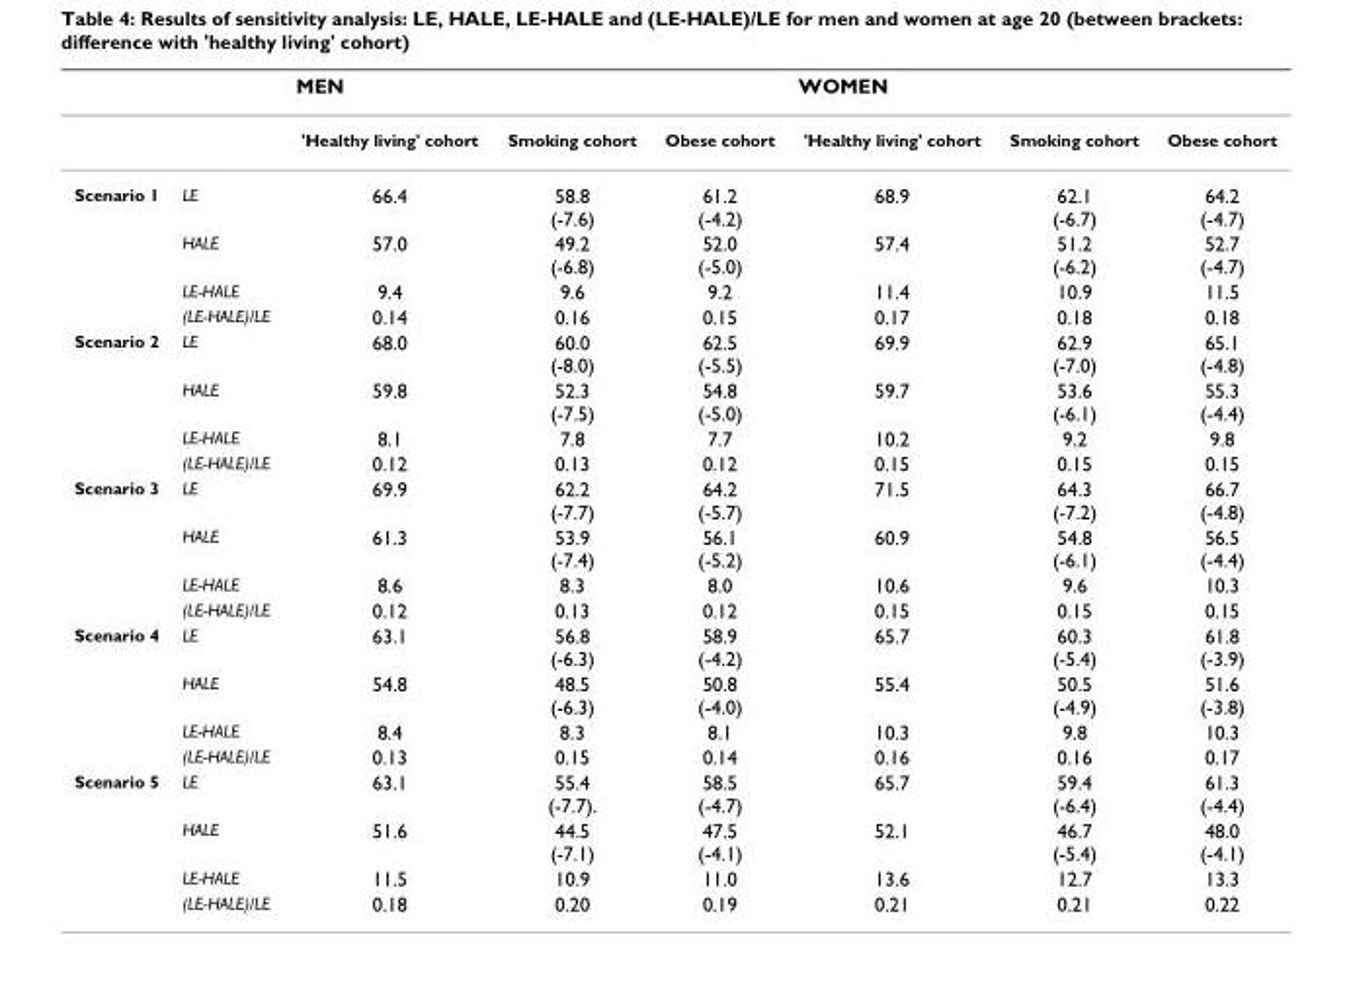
<table><thead><tr><td rowspan="2"></td><td rowspan="2"></td><td colspan="3">MEN</td><td colspan="3">WOMEN</td></tr><tr><td>&#x27;Healthy living&#x27; cohort</td><td>Smoking cohort</td><td>Obese cohort</td><td>&#x27;Healthy living&#x27; cohort</td><td>Smoking cohort</td><td>Obese cohort</td></tr></thead><tbody><tr><td rowspan="4">Scenario 1</td><td>LE</td><td>66.4</td><td>58.8 (-7.6)</td><td>61.2 (-4.2)</td><td>68.9</td><td>62.1 (-6.7)</td><td>64.2 (-4.7)</td></tr><tr><td>HALE</td><td>57.0</td><td>49.2 (-6.8)</td><td>52.0 (-5.0)</td><td>57.4</td><td>51.2 (-6.2)</td><td>52.7 (-4.7)</td></tr><tr><td>LE-HALE</td><td>9.4</td><td>9.6</td><td>9.2</td><td>11.4</td><td>10.9</td><td>11.5</td></tr><tr><td>(LE-HALE)/LE</td><td>0.14</td><td>0.16</td><td>0.15</td><td>0.17</td><td>0.18</td><td>0.18</td></tr><tr><td rowspan="4">Scenario 2</td><td>LE</td><td>68.0</td><td>60.0 (-8.0)</td><td>62.5 (-5.5)</td><td>69.9</td><td>62.9 (-7.0)</td><td>65.1 (-4.8)</td></tr><tr><td>HALE</td><td>59.8</td><td>52.3 (-7.5)</td><td>54.8 (-5.0)</td><td>59.7</td><td>53.6 (-6.1)</td><td>55.3 (-4.4)</td></tr><tr><td>LE-HALE</td><td>8.1</td><td>7.8</td><td>7.7</td><td>10.2</td><td>9.2</td><td>9.8</td></tr><tr><td>(LE-HALE)/LE</td><td>0.12</td><td>0.13</td><td>0.12</td><td>0.15</td><td>0.15</td><td>0.15</td></tr><tr><td rowspan="4">Scenario 3</td><td>LE</td><td>69.9</td><td>62.2 (-7.7)</td><td>64.2 (-5.7)</td><td>71.5</td><td>64.3 (-7.2)</td><td>66.7 (-4.8)</td></tr><tr><td>HALE</td><td>61.3</td><td>53.9 (-7.4)</td><td>56.1 (-5.2)</td><td>60.9</td><td>54.8 (-6.1)</td><td>56.5 (-4.4)</td></tr><tr><td>LE-HALE</td><td>8.6</td><td>8.3</td><td>8.0</td><td>10.6</td><td>9.6</td><td>10.3</td></tr><tr><td>(LE-HALE)/LE</td><td>0.12</td><td>0.13</td><td>0.12</td><td>0.15</td><td>0.15</td><td>0.15</td></tr><tr><td rowspan="4">Scenario 4</td><td>LE</td><td>63.1</td><td>56.8 (-6.3)</td><td>58.9 (-4.2)</td><td>65.7</td><td>60.3 (-5.4)</td><td>61.8 (-3.9)</td></tr><tr><td>HALE</td><td>54.8</td><td>48.5 (-6.3)</td><td>50.8 (-4.0)</td><td>55.4</td><td>50.5 (-4.9)</td><td>51.6 (-3.8)</td></tr><tr><td>LE-HALE</td><td>8.4</td><td>8.3</td><td>8.1</td><td>10.3</td><td>9.8</td><td>10.3</td></tr><tr><td>(LE-HALE)/LE</td><td>0.13</td><td>0.15</td><td>0.14</td><td>0.16</td><td>0.16</td><td>0.17</td></tr><tr><td rowspan="4">Scenario 5</td><td>LE</td><td>63.1</td><td>55.4 (-7.7).</td><td>58.5 (-4.7)</td><td>65.7</td><td>59.4 (-6.4)</td><td>61.3 (-4.4)</td></tr><tr><td>HALE</td><td>51.6</td><td>44.5 (-7.1)</td><td>47.5 (-4.1)</td><td>52.1</td><td>46.7 (-5.4)</td><td>48.0 (-4.1)</td></tr><tr><td>LE-HALE</td><td>11.5</td><td>10.9</td><td>11.0</td><td>13.6</td><td>12.7</td><td>13.3</td></tr><tr><td>(LE-HALE)/LE</td><td>0.18</td><td>0.20</td><td>0.19</td><td>0.21</td><td>0.21</td><td>0.22</td></tr></tbody></table>